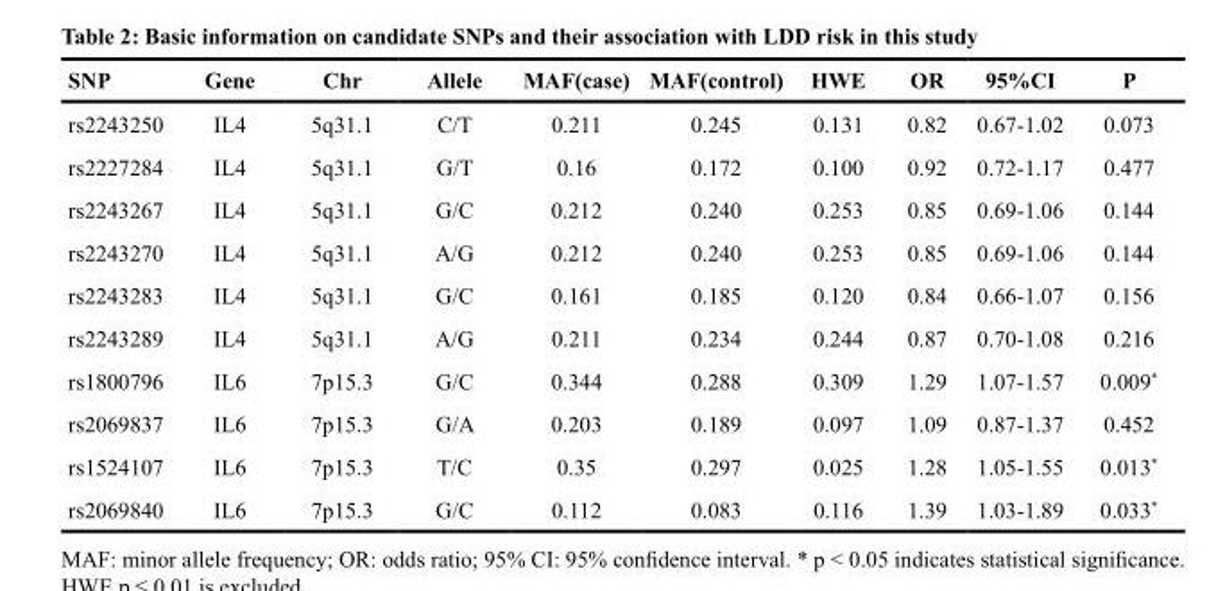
<table><thead><tr><td>SNP</td><td>Gene</td><td>Chr</td><td>Allele</td><td>MAF(case)</td><td>MAF(control)</td><td>HWE</td><td>OR</td><td>95%CI</td><td>P</td></tr></thead><tbody><tr><td>rs2243250</td><td>IL4</td><td>5q31.1</td><td>C/T</td><td>0.211</td><td>0.245</td><td>0.131</td><td>0.82</td><td>0.67-1.02</td><td>0.073</td></tr><tr><td>rs2227284</td><td>IL4</td><td>5q31.1</td><td>G/T</td><td>0.16</td><td>0.172</td><td>0.100</td><td>0.92</td><td>0.72-1.17</td><td>0.477</td></tr><tr><td>rs2243267</td><td>IL4</td><td>5q31.1</td><td>G/C</td><td>0.212</td><td>0.240</td><td>0.253</td><td>0.85</td><td>0.69-1.06</td><td>0.144</td></tr><tr><td>rs2243270</td><td>IL4</td><td>5q31.1</td><td>A/G</td><td>0.212</td><td>0.240</td><td>0.253</td><td>0.85</td><td>0.69-1.06</td><td>0.144</td></tr><tr><td>rs2243283</td><td>IL4</td><td>5q31.1</td><td>G/C</td><td>0.161</td><td>0.185</td><td>0.120</td><td>0.84</td><td>0.66-1.07</td><td>0.156</td></tr><tr><td>rs2243289</td><td>IL4</td><td>5q31.1</td><td>A/G</td><td>0.211</td><td>0.234</td><td>0.244</td><td>0.87</td><td>0.70-1.08</td><td>0.216</td></tr><tr><td>rs1800796</td><td>IL6</td><td>7p15.3</td><td>G/C</td><td>0.344</td><td>0.288</td><td>0.309</td><td>1.29</td><td>1.07-1.57</td><td>0.009*</td></tr><tr><td>rs2069837</td><td>IL6</td><td>7p15.3</td><td>G/A</td><td>0.203</td><td>0.189</td><td>0.097</td><td>1.09</td><td>0.87-1.37</td><td>0.452</td></tr><tr><td>rs1524107</td><td>IL6</td><td>7p15.3</td><td>T/C</td><td>0.35</td><td>0.297</td><td>0.025</td><td>1.28</td><td>1.05-1.55</td><td>0.013*</td></tr><tr><td>rs2069840</td><td>IL6</td><td>7p15.3</td><td>G/C</td><td>0.112</td><td>0.083</td><td>0.116</td><td>1.39</td><td>1.03-1.89</td><td>0.033*</td></tr></tbody></table>